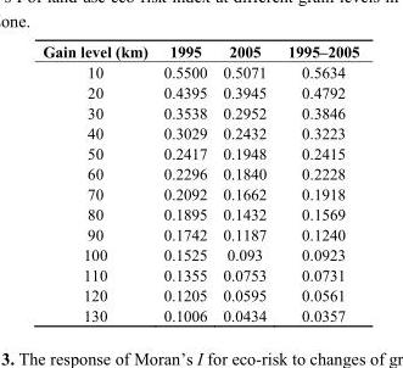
<table><thead><tr><td>Gain level (km)</td><td>1995</td><td>2005</td><td>1995–2005</td></tr></thead><tbody><tr><td>10</td><td>0.5500</td><td>0.5071</td><td>0.5634</td></tr><tr><td>20</td><td>0.4395</td><td>0.3945</td><td>0.4792</td></tr><tr><td>30</td><td>0.3538</td><td>0.2952</td><td>0.3846</td></tr><tr><td>40</td><td>0.3029</td><td>0.2432</td><td>0.3223</td></tr><tr><td>50</td><td>0.2417</td><td>0.1948</td><td>0.2415</td></tr><tr><td>60</td><td>0.2296</td><td>0.1840</td><td>0.2228</td></tr><tr><td>70</td><td>0.2092</td><td>0.1662</td><td>0.1918</td></tr><tr><td>80</td><td>0.1895</td><td>0.1432</td><td>0.1569</td></tr><tr><td>90</td><td>0.1742</td><td>0.1187</td><td>0.1240</td></tr><tr><td>100</td><td>0.1525</td><td>0.093</td><td>0.0923</td></tr><tr><td>110</td><td>0.1355</td><td>0.0753</td><td>0.0731</td></tr><tr><td>120</td><td>0.1205</td><td>0.0595</td><td>0.0561</td></tr><tr><td>130</td><td>0.1006</td><td>0.0434</td><td>0.0357</td></tr></tbody></table>